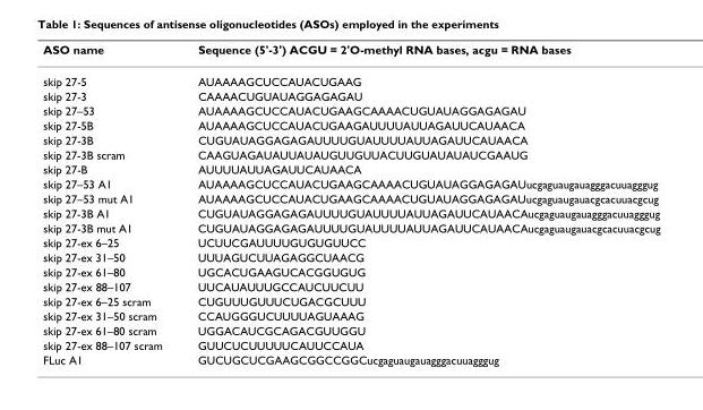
<table><thead><tr><td>ASO name</td><td>Sequence (5&#x27;-3&#x27;) ACGU = 2&#x27;O-methyl RNA bases, acgu = RNA bases</td></tr></thead><tbody><tr><td>skip 27-5</td><td>AUAAAAGCUCCAUACUGAAG</td></tr><tr><td>skip 27-3</td><td>CAAAACUGUAUAGGAGAGAU</td></tr><tr><td>skip 27–53</td><td>AUAAAAGCUCCAUACUGAAGCAAAACUGUAUAGGAGAGAU</td></tr><tr><td>skip 27-5B</td><td>AUAAAAGCUCCAUACUGAAGAUUUUAUUAGAUUCAUAACA</td></tr><tr><td>skip 27-3B</td><td>CUGUAUAGGAGAGAUUUUGUAUUUUAUUAGAUUCAUAACA</td></tr><tr><td>skip 27-3B scram</td><td>CAAGUAGAUAUUAUAUGUUGUUACUUGUAUAUAUCGAAUG</td></tr><tr><td>skip 27-B</td><td>AUUUUAUUAGAUUCAUAACA</td></tr><tr><td>skip 27–53 A1</td><td>AUAAAAGCUCCAUACUGAAGCAAAACUGUAUAGGAGAGAUucgaguaugauagggacuuagggug</td></tr><tr><td>skip 27–53 mut A1</td><td>AUAAAAGCUCCAUACUGAAGCAAAACUGUAUAGGAGAGAUucgaguaugauacgcacuuacgcug</td></tr><tr><td>skip 27-3B A1</td><td>CUGUAUAGGAGAGAUUUUGUAUUUUAUUAGAUUCAUAACAucgaguaugauagggacuuagggug</td></tr><tr><td>skip 27-3B mut A1</td><td>CUGUAUAGGAGAGAUUUUGUAUUUUAUUAGAUUCAUAACAucgaguaugauacgcacuuacgcug</td></tr><tr><td>skip 27-ex 6–25</td><td>UCUUCGAUUUUGUGUGUUCC</td></tr><tr><td>skip 27-ex 31–50</td><td>UUUAGUCUUAGAGGCUAACG</td></tr><tr><td>skip 27-ex 61–80</td><td>UGCACUGAAGUCACGGUGUG</td></tr><tr><td>skip 27-ex 88–107</td><td>UUCAUAUUUGCCAUCUUCUU</td></tr><tr><td>skip 27-ex 6–25 scram</td><td>CUGUUUGUUUCUGACGCUUU</td></tr><tr><td>skip 27-ex 31–50 scram</td><td>CCAUGGGUCUUUUAGUAAAG</td></tr><tr><td>skip 27-ex 61–80 scram</td><td>UGGACAUCGCAGACGUUGGU</td></tr><tr><td>skip 27-ex 88–107 scram</td><td>GUUCUCUUUUUCAUUCCAUA</td></tr><tr><td>FLuc A1</td><td>GUCUGCUCGAAGCGGCCGGCucgaguaugauagggacuuagggug</td></tr></tbody></table>